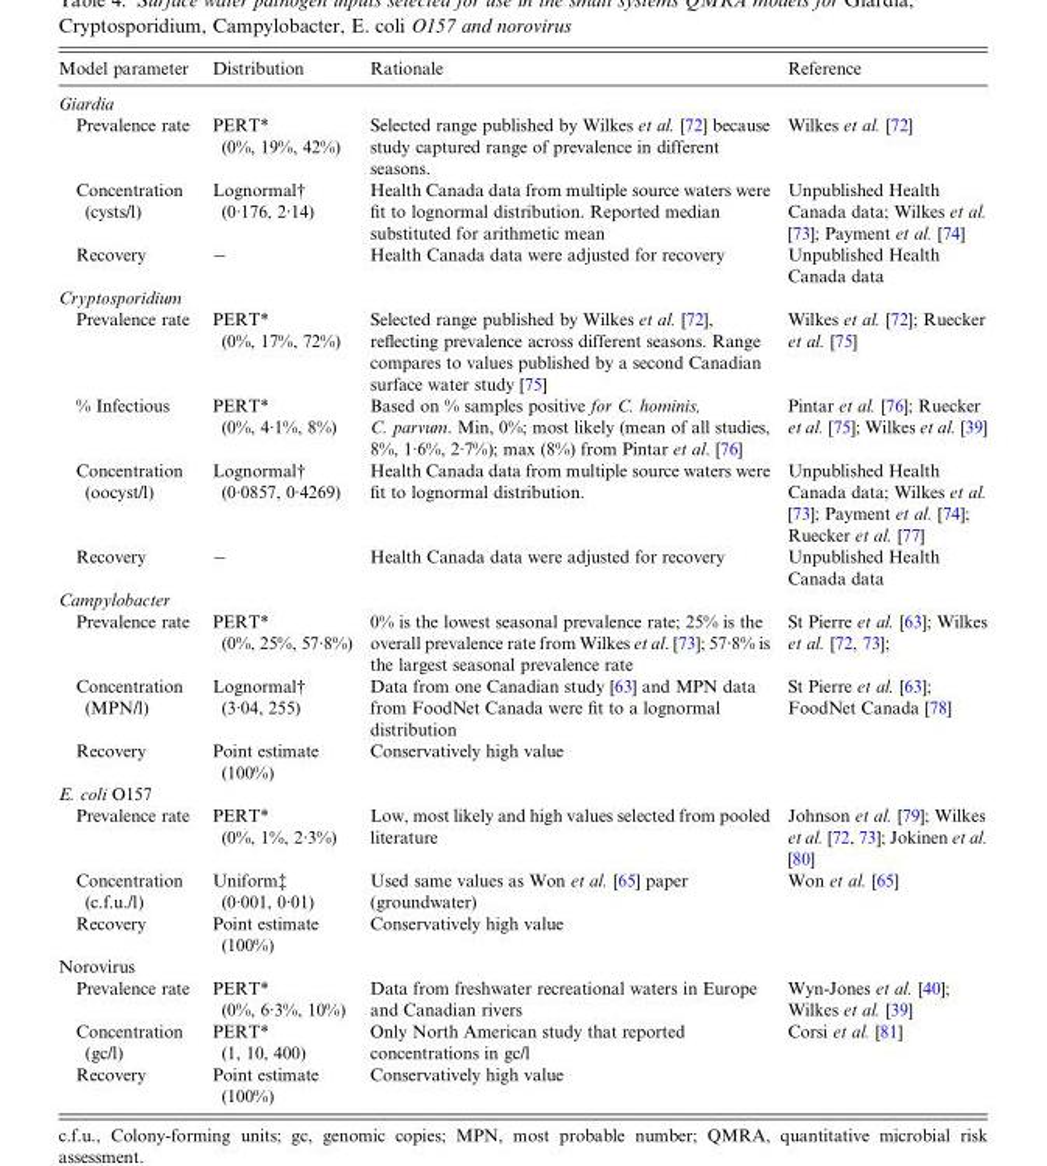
<table><thead><tr><td>Model parameter</td><td>Distribution</td><td>Rationale</td><td>Reference</td></tr></thead><tbody><tr><td colspan="4">Giardia</td></tr><tr><td>Prevalence rate</td><td>PERT* (0%, 19%, 42%)</td><td>Selected range published by Wilkes et al. [72] because study captured range of prevalence in different seasons.</td><td>Wilkes et al. [72]</td></tr><tr><td>Concentration (cysts/l)</td><td>Lognormal† (0·176, 2·14)</td><td>Health Canada data from multiple source waters were fit to lognormal distribution. Reported median substituted for arithmetic mean</td><td>Unpublished Health Canada data; Wilkes et al. [73]; Payment et al. [74]</td></tr><tr><td>Recovery</td><td>−</td><td>Health Canada data were adjusted for recovery</td><td>Unpublished Health Canada data</td></tr><tr><td colspan="4">Cryptosporidium</td></tr><tr><td>Prevalence rate</td><td>PERT* (0%, 17%, 72%)</td><td>Selected range published by Wilkes et al. [72], reflecting prevalence across different seasons. Range compares to values published by a second Canadian surface water study [75]</td><td>Wilkes et al. [72]; Ruecker et al. [75]</td></tr><tr><td>% Infectious</td><td>PERT* (0%, 4·1%, 8%)</td><td>Based on % samples positive for C. hominis, C. parvum. Min, 0%; most likely (mean of all studies, 8%, 1·6%, 2·7%); max (8%) from Pintar et al. [76]</td><td>Pintar et al. [76]; Ruecker et al. [75]; Wilkes et al. [39]</td></tr><tr><td>Concentration (oocyst/l)</td><td>Lognormal† (0·0857, 0·4269)</td><td>Health Canada data from multiple source waters were fit to lognormal distribution.</td><td>Unpublished Health Canada data; Wilkes et al. [73]; Payment et al. [74]; Ruecker et al. [77]</td></tr><tr><td>Recovery</td><td>−</td><td>Health Canada data were adjusted for recovery</td><td>Unpublished Health Canada data</td></tr><tr><td colspan="4">Campylobacter</td></tr><tr><td>Prevalence rate</td><td>PERT* (0%, 25%, 57·8%)</td><td>0% is the lowest seasonal prevalence rate; 25% is the overall prevalence rate from Wilkes et al. [73]; 57·8% is the largest seasonal prevalence rate</td><td>St Pierre et al. [63]; Wilkes et al. [72, 73];</td></tr><tr><td>Concentration (MPN/l)</td><td>Lognormal† (3·04, 255)</td><td>Data from one Canadian study [63] and MPN data from FoodNet Canada were fit to a lognormal distribution</td><td>St Pierre et al. [63]; FoodNet Canada [78]</td></tr><tr><td>Recovery</td><td>Point estimate (100%)</td><td>Conservatively high value</td><td></td></tr><tr><td colspan="4">E. coli O157</td></tr><tr><td>Prevalence rate</td><td>PERT* (0%, 1%, 2·3%)</td><td>Low, most likely and high values selected from pooled literature</td><td>Johnson et al. [79]; Wilkes et al. [72, 73]; Jokinen et al. [80]</td></tr><tr><td>Concentration (c.f.u./l)</td><td>Uniform‡ (0·001, 0·01)</td><td>Used same values as Won et al. [65] paper (groundwater)</td><td>Won et al. [65]</td></tr><tr><td>Recovery</td><td>Point estimate (100%)</td><td>Conservatively high value</td><td></td></tr><tr><td colspan="4">Norovirus</td></tr><tr><td>Prevalence rate</td><td>PERT* (0%, 6·3%, 10%)</td><td>Data from freshwater recreational waters in Europe and Canadian rivers</td><td>Wyn-Jones et al. [40]; Wilkes et al. [39]</td></tr><tr><td>Concentration (gc/l)</td><td>PERT* (1, 10, 400)</td><td>Only North American study that reported concentrations in gc/l</td><td>Corsi et al. [81]</td></tr><tr><td>Recovery</td><td>Point estimate (100%)</td><td>Conservatively high value</td><td></td></tr></tbody></table>